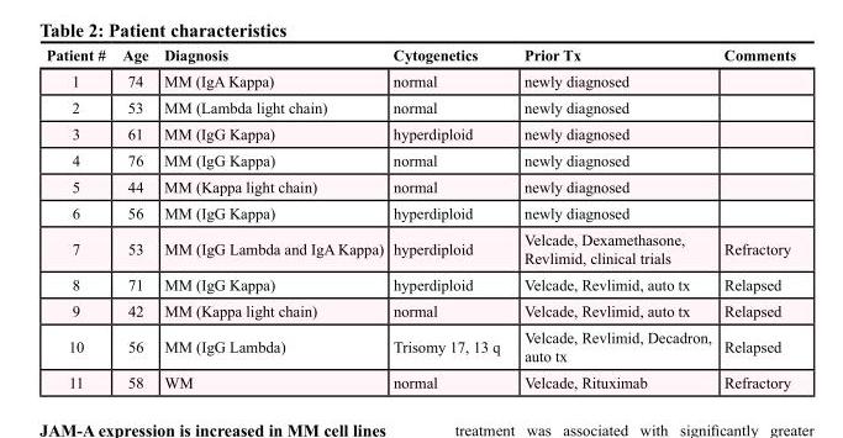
<table><thead><tr><td>Patient #</td><td>Age</td><td>Diagnosis</td><td>Cytogenetics</td><td>Prior Tx</td><td>Comments</td></tr></thead><tbody><tr><td>1</td><td>74</td><td>MM (IgA Kappa)</td><td>normal</td><td>newly diagnosed</td><td></td></tr><tr><td>2</td><td>53</td><td>MM (Lambda light chain)</td><td>normal</td><td>newly diagnosed</td><td></td></tr><tr><td>3</td><td>61</td><td>MM (IgG Kappa)</td><td>hyperdiploid</td><td>newly diagnosed</td><td></td></tr><tr><td>4</td><td>76</td><td>MM (IgG Kappa)</td><td>normal</td><td>newly diagnosed</td><td></td></tr><tr><td>5</td><td>44</td><td>MM (Kappa light chain)</td><td>normal</td><td>newly diagnosed</td><td></td></tr><tr><td>6</td><td>56</td><td>MM (IgG Kappa)</td><td>hyperdiploid</td><td>newly diagnosed</td><td></td></tr><tr><td>7</td><td>53</td><td>MM (IgG Lambda and IgA Kappa)</td><td>hyperdiploid</td><td>Velcade, Dexamethasone, Revlimid, clinical trials</td><td>Refractory</td></tr><tr><td>8</td><td>71</td><td>MM (IgG Kappa)</td><td>hyperdiploid</td><td>Velcade, Revlimid, auto tx</td><td>Relapsed</td></tr><tr><td>9</td><td>42</td><td>MM (Kappa light chain)</td><td>normal</td><td>Velcade, Revlimid, auto tx</td><td>Relapsed</td></tr><tr><td>10</td><td>56</td><td>MM (IgG Lambda)</td><td>Trisomy 17, 13 q</td><td>Velcade, Revlimid, Decadron, auto tx</td><td>Relapsed</td></tr><tr><td>11</td><td>58</td><td>WM</td><td>normal</td><td>Velcade, Rituximab</td><td>Refractory</td></tr></tbody></table>